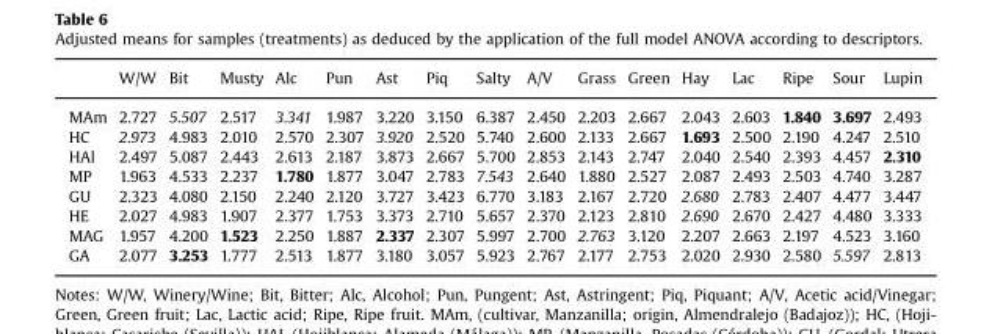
<table><thead><tr><td></td><td>W/W</td><td>Bit</td><td>Musty</td><td>Alc</td><td>Pun</td><td>Ast</td><td>Piq</td><td>Salty</td><td>A/V</td><td>Grass</td><td>Green</td><td>Hay</td><td>Lac</td><td>Ripe</td><td>Sour</td><td>Lupin</td></tr></thead><tbody><tr><td>MAm</td><td>2.727</td><td>5.507</td><td>2.517</td><td>3.341</td><td>1.987</td><td>3.220</td><td>3.150</td><td>6.387</td><td>2.450</td><td>2.203</td><td>2.667</td><td>2.043</td><td>2.603</td><td>1.840</td><td>3.697</td><td>2.493</td></tr><tr><td>HC</td><td>2.973</td><td>4.983</td><td>2.010</td><td>2.570</td><td>2.307</td><td>3.920</td><td>2.520</td><td>5.740</td><td>2.600</td><td>2.133</td><td>2.667</td><td>1.693</td><td>2.500</td><td>2.190</td><td>4.247</td><td>2.510</td></tr><tr><td>HAl</td><td>2.497</td><td>5.087</td><td>2.443</td><td>2.613</td><td>2.187</td><td>3.873</td><td>2.667</td><td>5.700</td><td>2.853</td><td>2.143</td><td>2.747</td><td>2.040</td><td>2.540</td><td>2.393</td><td>4.457</td><td>2.310</td></tr><tr><td>MP</td><td>1.963</td><td>4.533</td><td>2.237</td><td>1.780</td><td>1.877</td><td>3.047</td><td>2.783</td><td>7.543</td><td>2.640</td><td>1.880</td><td>2.527</td><td>2.087</td><td>2.493</td><td>2.503</td><td>4.740</td><td>3.287</td></tr><tr><td>GU</td><td>2.323</td><td>4.080</td><td>2.150</td><td>2.240</td><td>2.120</td><td>3.727</td><td>3.423</td><td>6.770</td><td>3.183</td><td>2.167</td><td>2.720</td><td>2.680</td><td>2.783</td><td>2.407</td><td>4.477</td><td>3.447</td></tr><tr><td>HE</td><td>2.027</td><td>4.983</td><td>1.907</td><td>2.377</td><td>1.753</td><td>3.373</td><td>2.710</td><td>5.657</td><td>2.370</td><td>2.123</td><td>2.810</td><td>2.690</td><td>2.670</td><td>2.427</td><td>4.480</td><td>3.333</td></tr><tr><td>MAG</td><td>1.957</td><td>4.200</td><td>1.523</td><td>2.250</td><td>1.887</td><td>2.337</td><td>2.307</td><td>5.997</td><td>2.700</td><td>2.763</td><td>3.120</td><td>2.207</td><td>2.663</td><td>2.197</td><td>4.523</td><td>3.160</td></tr><tr><td>GA</td><td>2.077</td><td>3.253</td><td>1.777</td><td>2.513</td><td>1.877</td><td>3.180</td><td>3.057</td><td>5.923</td><td>2.767</td><td>2.177</td><td>2.753</td><td>2.020</td><td>2.930</td><td>2.580</td><td>5.597</td><td>2.813</td></tr></tbody></table>